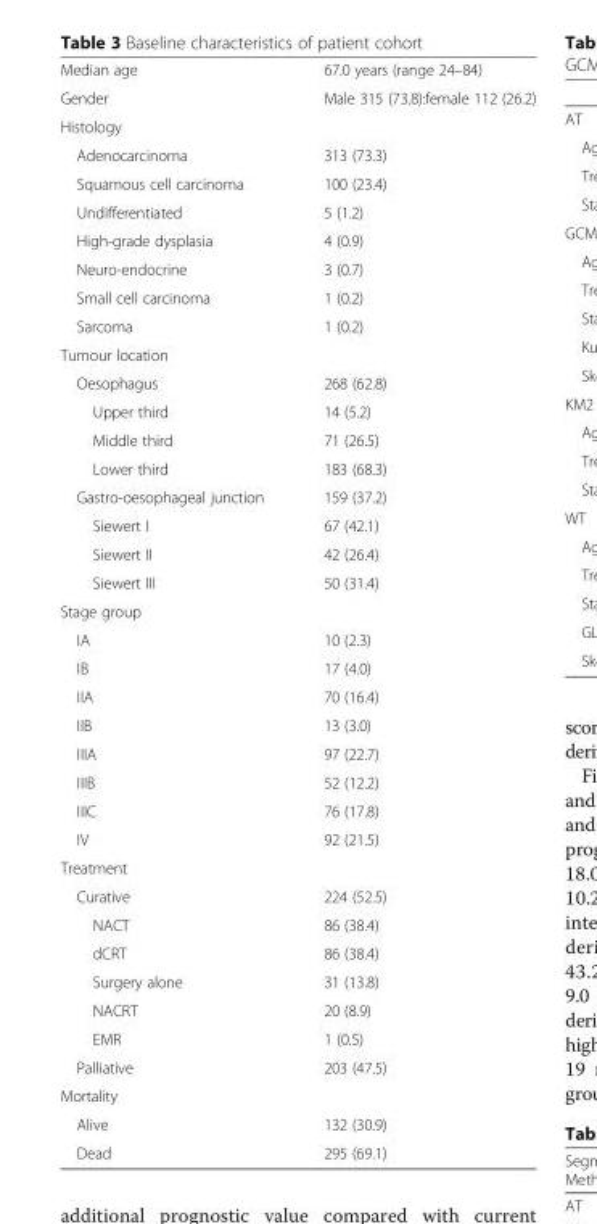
<table><tbody><tr><td>Median age</td><td>67.0 years (range 24–84)</td></tr><tr><td>Gender</td><td>Male 315 (73.8):female 112 (26.2)</td></tr><tr><td colspan="2">Histology</td></tr><tr><td>Adenocarcinoma</td><td>313 (73.3)</td></tr><tr><td>Squamous cell carcinoma</td><td>100 (23.4)</td></tr><tr><td>Undifferentiated</td><td>5 (1.2)</td></tr><tr><td>High-grade dysplasia</td><td>4 (0.9)</td></tr><tr><td>Neuro-endocrine</td><td>3 (0.7)</td></tr><tr><td>Small cell carcinoma</td><td>1 (0.2)</td></tr><tr><td>Sarcoma</td><td>1 (0.2)</td></tr><tr><td colspan="2">Tumour location</td></tr><tr><td>Oesophagus</td><td>268 (62.8)</td></tr><tr><td>Upper third</td><td>14 (5.2)</td></tr><tr><td>Middle third</td><td>71 (26.5)</td></tr><tr><td>Lower third</td><td>183 (68.3)</td></tr><tr><td>Gastro-oesophageal junction</td><td>159 (37.2)</td></tr><tr><td>Siewert I</td><td>67 (42.1)</td></tr><tr><td>Siewert II</td><td>42 (26.4)</td></tr><tr><td>Siewert III</td><td>50 (31.4)</td></tr><tr><td colspan="2">Stage group</td></tr><tr><td>IA</td><td>10 (2.3)</td></tr><tr><td>IB</td><td>17 (4.0)</td></tr><tr><td>IIA</td><td>70 (16.4)</td></tr><tr><td>IIB</td><td>13 (3.0)</td></tr><tr><td>IIIA</td><td>97 (22.7)</td></tr><tr><td>IIIB</td><td>52 (12.2)</td></tr><tr><td>IIIC</td><td>76 (17.8)</td></tr><tr><td>IV</td><td>92 (21.5)</td></tr><tr><td colspan="2">Treatment</td></tr><tr><td>Curative</td><td>224 (52.5)</td></tr><tr><td>NACT</td><td>86 (38.4)</td></tr><tr><td>dCRT</td><td>86 (38.4)</td></tr><tr><td>Surgery alone</td><td>31 (13.8)</td></tr><tr><td>NACRT</td><td>20 (8.9)</td></tr><tr><td>EMR</td><td>1 (0.5)</td></tr><tr><td>Palliative</td><td>203 (47.5)</td></tr><tr><td colspan="2">Mortality</td></tr><tr><td>Alive</td><td>132 (30.9)</td></tr><tr><td>Dead</td><td>295 (69.1)</td></tr></tbody></table>